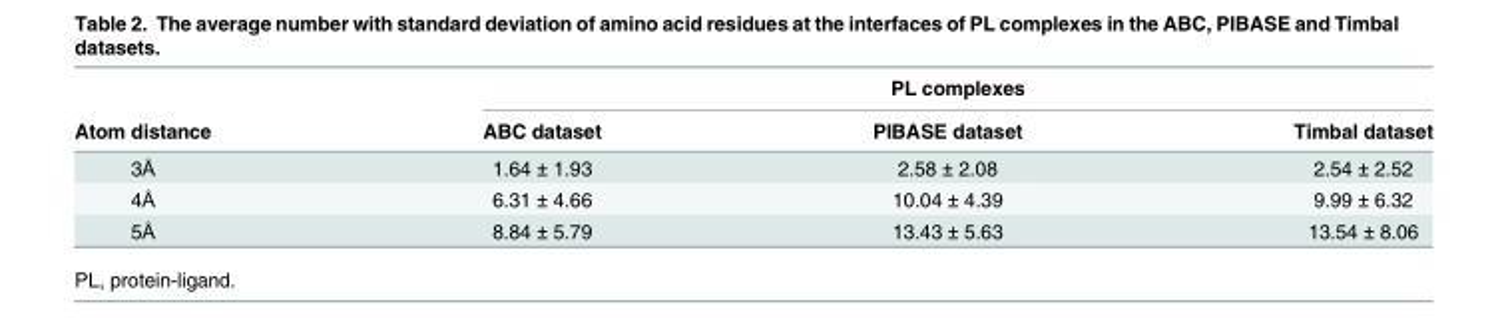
<table><thead><tr><td rowspan="2">Atom distance</td><td colspan="3">PL complexes</td></tr><tr><td>ABC dataset</td><td>PIBASE dataset</td><td>Timbal dataset</td></tr></thead><tbody><tr><td>3Å</td><td>1.64 ± 1.93</td><td>2.58 ± 2.08</td><td>2.54 ± 2.52</td></tr><tr><td>4Å</td><td>6.31 ± 4.66</td><td>10.04 ± 4.39</td><td>9.99 ± 6.32</td></tr><tr><td>5Å</td><td>8.84 ± 5.79</td><td>13.43 ± 5.63</td><td>13.54 ± 8.06</td></tr></tbody></table>